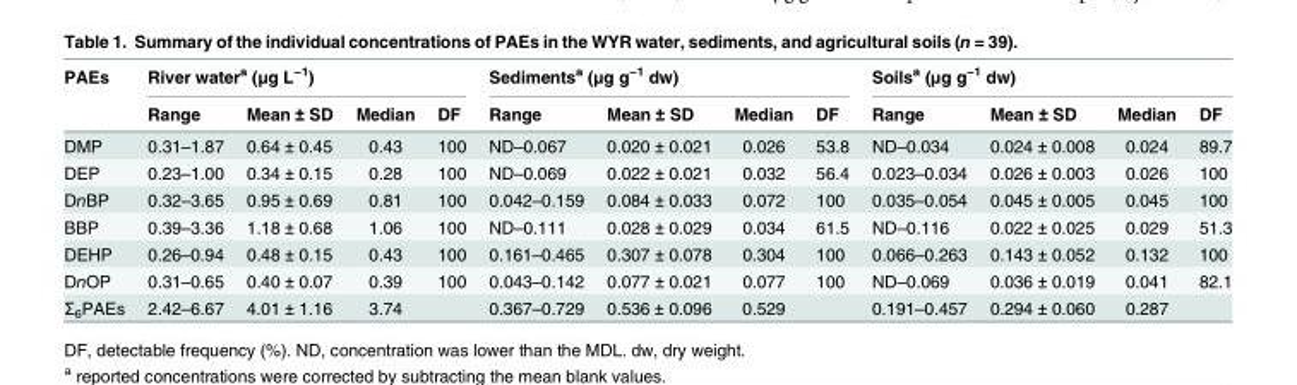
<table><thead><tr><td rowspan="2">PAEs</td><td colspan="4">River water<sup>a</sup> (μg L<sup>−1</sup>)</td><td colspan="4">Sediments<sup>a</sup> (μg g<sup>−1</sup> dw)</td><td colspan="4">Soils<sup>a</sup> (μg g<sup>−1</sup> dw)</td></tr><tr><td>Range</td><td>Mean ± SD</td><td>Median</td><td>DF</td><td>Range</td><td>Mean ± SD</td><td>Median</td><td>DF</td><td>Range</td><td>Mean ± SD</td><td>Median</td><td>DF</td></tr></thead><tbody><tr><td>DMP</td><td>0.31–1.87</td><td>0.64 ± 0.45</td><td>0.43</td><td>100</td><td>ND–0.067</td><td>0.020 ± 0.021</td><td>0.026</td><td>53.8</td><td>ND–0.034</td><td>0.024 ± 0.008</td><td>0.024</td><td>89.7</td></tr><tr><td>DEP</td><td>0.23–1.00</td><td>0.34 ± 0.15</td><td>0.28</td><td>100</td><td>ND–0.069</td><td>0.022 ± 0.021</td><td>0.032</td><td>56.4</td><td>0.023–0.034</td><td>0.026 ± 0.003</td><td>0.026</td><td>100</td></tr><tr><td>DnBP</td><td>0.32–3.65</td><td>0.95 ± 0.69</td><td>0.81</td><td>100</td><td>0.042–0.159</td><td>0.084 ± 0.033</td><td>0.072</td><td>100</td><td>0.035–0.054</td><td>0.045 ± 0.005</td><td>0.045</td><td>100</td></tr><tr><td>BBP</td><td>0.39–3.36</td><td>1.18 ± 0.68</td><td>1.06</td><td>100</td><td>ND–0.111</td><td>0.028 ± 0.029</td><td>0.034</td><td>61.5</td><td>ND–0.116</td><td>0.022 ± 0.025</td><td>0.029</td><td>51.3</td></tr><tr><td>DEHP</td><td>0.26–0.94</td><td>0.48 ± 0.15</td><td>0.43</td><td>100</td><td>0.161–0.465</td><td>0.307 ± 0.078</td><td>0.304</td><td>100</td><td>0.066–0.263</td><td>0.143 ± 0.052</td><td>0.132</td><td>100</td></tr><tr><td>DnOP</td><td>0.31–0.65</td><td>0.40 ± 0.07</td><td>0.39</td><td>100</td><td>0.043–0.142</td><td>0.077 ± 0.021</td><td>0.077</td><td>100</td><td>ND–0.069</td><td>0.036 ± 0.019</td><td>0.041</td><td>82.1</td></tr><tr><td>Σ<sub>6</sub>PAEs</td><td>2.42–6.67</td><td>4.01 ± 1.16</td><td>3.74</td><td></td><td>0.367–0.729</td><td>0.536 ± 0.096</td><td>0.529</td><td></td><td>0.191–0.457</td><td>0.294 ± 0.060</td><td>0.287</td><td></td></tr></tbody></table>